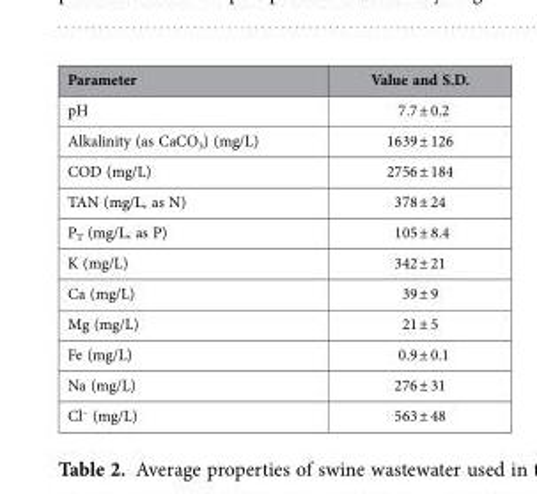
<table><thead><tr><td>Parameter</td><td>Value and S.D.</td></tr></thead><tbody><tr><td>pH</td><td>7.7 ± 0.2</td></tr><tr><td>Alkalinity (as CaCO<sub>3</sub>) (mg/L)</td><td>1639 ± 126</td></tr><tr><td>COD (mg/L)</td><td>2756 ± 184</td></tr><tr><td>TAN (mg/L, as N)</td><td>378 ± 24</td></tr><tr><td>P<sub>T</sub> (mg/L, as P)</td><td>105 ± 8.4</td></tr><tr><td>K (mg/L)</td><td>342 ± 21</td></tr><tr><td>Ca (mg/L)</td><td>39 ± 9</td></tr><tr><td>Mg (mg/L)</td><td>21 ± 5</td></tr><tr><td>Fe (mg/L)</td><td>0.9 ± 0.1</td></tr><tr><td>Na (mg/L)</td><td>276 ± 31</td></tr><tr><td>Cl<sup>–</sup> (mg/L)</td><td>563 ± 48</td></tr></tbody></table>